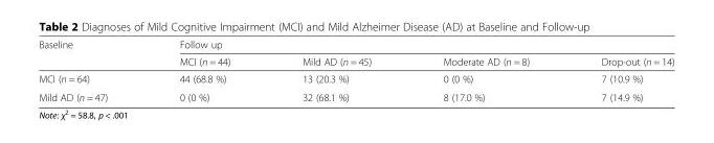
<table><thead><tr><td rowspan="2">Baseline</td><td colspan="4">Follow up</td></tr><tr><td>MCI (n = 44)</td><td>Mild AD (n = 45)</td><td>Moderate AD (n = 8)</td><td>Drop-out (n = 14)</td></tr></thead><tbody><tr><td>MCI (n = 64)</td><td>44 (68.8 %)</td><td>13 (20.3 %)</td><td>0 (0 %)</td><td>7 (10.9 %)</td></tr><tr><td>Mild AD (n = 47)</td><td>0 (0 %)</td><td>32 (68.1 %)</td><td>8 (17.0 %)</td><td>7 (14.9 %)</td></tr></tbody></table>